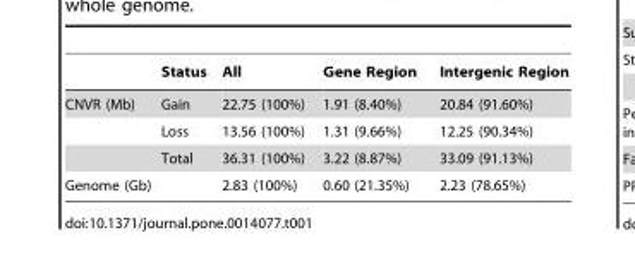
<table><thead><tr><td></td><td>Status</td><td>All</td><td>Gene Region</td><td>Intergenic Region</td></tr></thead><tbody><tr><td rowspan="3">CNVR (Mb)</td><td>Gain</td><td>22.75 (100%)</td><td>1.91 (8.40%)</td><td>20.84 (91.60%)</td></tr><tr><td>Loss</td><td>13.56 (100%)</td><td>1.31 (9.66%)</td><td>12.25 (90.34%)</td></tr><tr><td>Total</td><td>36.31 (100%)</td><td>3.22 (8.87%)</td><td>33.09 (91.13%)</td></tr><tr><td>Genome (Gb)</td><td></td><td>2.83 (100%)</td><td>0.60 (21.35%)</td><td>2.23 (78.65%)</td></tr></tbody></table>